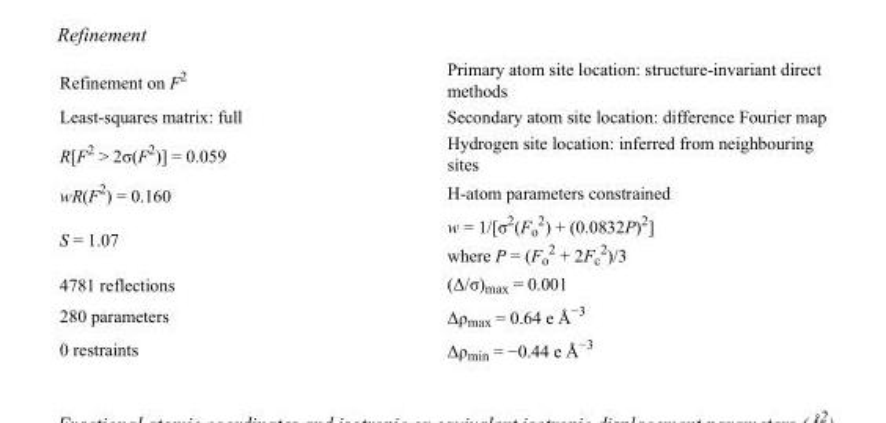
<table><tbody><tr><td>Refinement on F<sup>2</sup></td><td>Primary atom site location: structure-invariant direct methods</td></tr><tr><td>Least-squares matrix: full</td><td>Secondary atom site location: difference Fourier map</td></tr><tr><td>R[F<sup>2</sup> &gt; 2σ(F<sup>2</sup>)] = 0.059</td><td>Hydrogen site location: inferred from neighbouring sites</td></tr><tr><td>wR(F<sup>2</sup>) = 0.160</td><td>H-atom parameters constrained</td></tr><tr><td>S = 1.07</td><td>w = 1/[σ<sup>2</sup>(F<sub>o</sub> <sup>2</sup>) + (0.0832P)<sup>2</sup>] where P = (F<sub>o</sub> <sup>2</sup> + 2F<sub>c</sub> <sup>2</sup>)/3</td></tr><tr><td>4781 reflections</td><td>(Δ/σ)<sub>max</sub> = 0.001</td></tr><tr><td>280 parameters</td><td>Δρ<sub>max</sub> = 0.64 e Å<sup>−3</sup></td></tr><tr><td>0 restraints</td><td>Δρ<sub>min</sub> = −0.44 e Å<sup>−3</sup></td></tr></tbody></table>